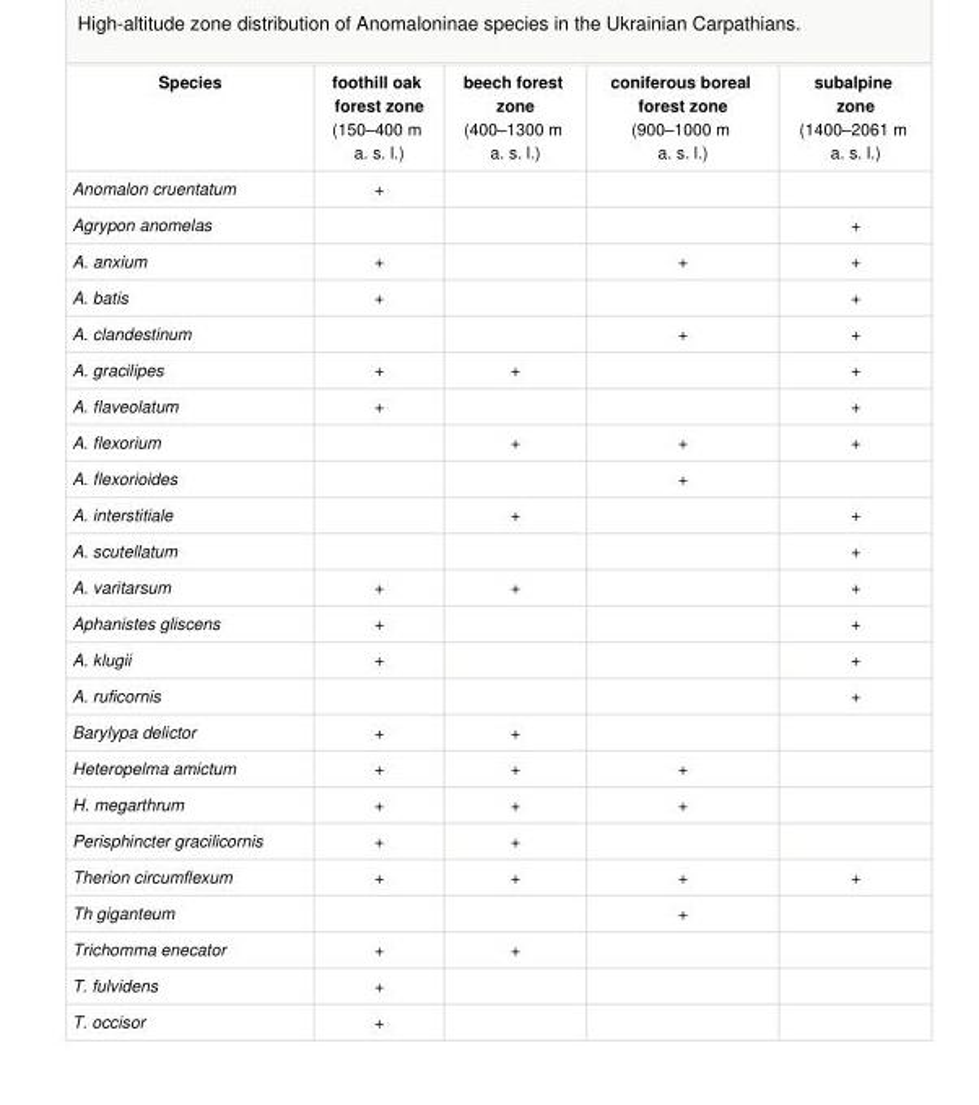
<table><tbody><tr><td>Species</td><td>foothill oak forest zone (150–400 m a. s. l.)</td><td>beech forest zone (400–1300 m a. s. l.)</td><td>coniferous boreal forest zone (900–1000 m a. s. l.)</td><td>subalpine zone (1400–2061 m a. s. l.)</td></tr><tr><td>Anomalon cruentatum</td><td>+</td><td></td><td></td><td></td></tr><tr><td>Agrypon anomelas</td><td></td><td></td><td></td><td>+</td></tr><tr><td>A. anxium</td><td>+</td><td></td><td>+</td><td>+</td></tr><tr><td>A. batis</td><td>+</td><td></td><td></td><td>+</td></tr><tr><td>A. clandestinum</td><td></td><td></td><td>+</td><td>+</td></tr><tr><td>A. gracilipes</td><td>+</td><td>+</td><td></td><td>+</td></tr><tr><td>A. flaveolatum</td><td>+</td><td></td><td></td><td>+</td></tr><tr><td>A. flexorium</td><td></td><td>+</td><td>+</td><td>+</td></tr><tr><td>A. flexorioides</td><td></td><td></td><td>+</td><td></td></tr><tr><td>A. interstitiale</td><td></td><td>+</td><td></td><td>+</td></tr><tr><td>A. scutellatum</td><td></td><td></td><td></td><td>+</td></tr><tr><td>A. varitarsum</td><td>+</td><td>+</td><td></td><td>+</td></tr><tr><td>Aphanistes gliscens</td><td>+</td><td></td><td></td><td>+</td></tr><tr><td>A. klugii</td><td>+</td><td></td><td></td><td>+</td></tr><tr><td>A. ruficornis</td><td></td><td></td><td></td><td>+</td></tr><tr><td>Barylypa delictor</td><td>+</td><td>+</td><td></td><td></td></tr><tr><td>Heteropelma amictum</td><td>+</td><td>+</td><td>+</td><td></td></tr><tr><td>H. megarthrum</td><td>+</td><td>+</td><td>+</td><td></td></tr><tr><td>Perisphincter gracilicornis</td><td>+</td><td>+</td><td></td><td></td></tr><tr><td>Therion circumflexum</td><td>+</td><td>+</td><td>+</td><td>+</td></tr><tr><td>Th giganteum</td><td></td><td></td><td>+</td><td></td></tr><tr><td>Trichomma enecator</td><td>+</td><td>+</td><td></td><td></td></tr><tr><td>T. fulvidens</td><td>+</td><td></td><td></td><td></td></tr><tr><td>T. occisor</td><td>+</td><td></td><td></td><td></td></tr></tbody></table>